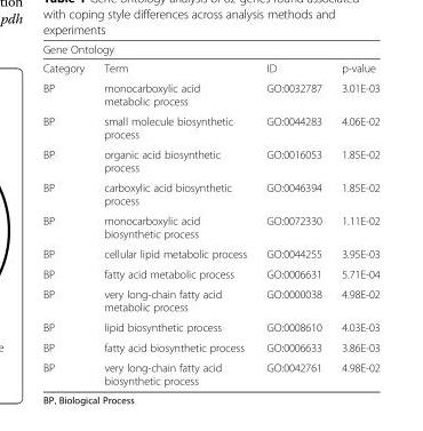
<table><thead><tr><td colspan="3">Gene Ontology</td><td rowspan="2">p-value</td></tr><tr><td>Category</td><td>Term</td><td>ID</td></tr></thead><tbody><tr><td>BP</td><td>monocarboxylic acid metabolic process</td><td>GO:0032787</td><td>3.01E-03</td></tr><tr><td>BP</td><td>small molecule biosynthetic process</td><td>GO:0044283</td><td>4.06E-02</td></tr><tr><td>BP</td><td>organic acid biosynthetic process</td><td>GO:0016053</td><td>1.85E-02</td></tr><tr><td>BP</td><td>carboxylic acid biosynthetic process</td><td>GO:0046394</td><td>1.85E-02</td></tr><tr><td>BP</td><td>monocarboxylic acid biosynthetic process</td><td>GO:0072330</td><td>1.11E-02</td></tr><tr><td>BP</td><td>cellular lipid metabolic process</td><td>GO:0044255</td><td>3.95E-03</td></tr><tr><td>BP</td><td>fatty acid metabolic process</td><td>GO:0006631</td><td>5.71E-04</td></tr><tr><td>BP</td><td>very long-chain fatty acid metabolic process</td><td>GO:0000038</td><td>4.98E-02</td></tr><tr><td>BP</td><td>lipid biosynthetic process</td><td>GO:0008610</td><td>4.03E-03</td></tr><tr><td>BP</td><td>fatty acid biosynthetic process</td><td>GO:0006633</td><td>3.86E-03</td></tr><tr><td>BP</td><td>very long-chain fatty acid biosynthetic process</td><td>GO:0042761</td><td>4.98E-02</td></tr></tbody></table>